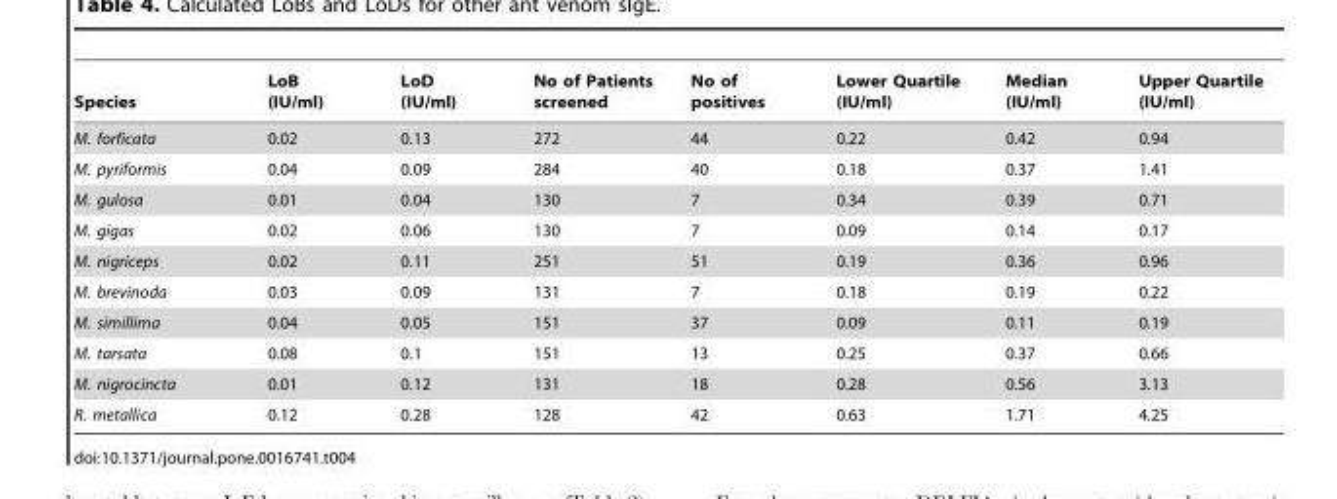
<table><thead><tr><td>Species</td><td>LoB (IU/ml)</td><td>LoD (IU/ml)</td><td>No of Patients screened</td><td>No of positives</td><td>Lower Quartile (IU/ml)</td><td>Median (IU/ml)</td><td>Upper Quartile (IU/ml)</td></tr></thead><tbody><tr><td>M. forficata</td><td>0.02</td><td>0.13</td><td>272</td><td>44</td><td>0.22</td><td>0.42</td><td>0.94</td></tr><tr><td>M. pyriformis</td><td>0.04</td><td>0.09</td><td>284</td><td>40</td><td>0.18</td><td>0.37</td><td>1.41</td></tr><tr><td>M. gulosa</td><td>0.01</td><td>0.04</td><td>130</td><td>7</td><td>0.34</td><td>0.39</td><td>0.71</td></tr><tr><td>M. gigas</td><td>0.02</td><td>0.06</td><td>130</td><td>7</td><td>0.09</td><td>0.14</td><td>0.17</td></tr><tr><td>M. nigriceps</td><td>0.02</td><td>0.11</td><td>251</td><td>51</td><td>0.19</td><td>0.36</td><td>0.96</td></tr><tr><td>M. brevinoda</td><td>0.03</td><td>0.09</td><td>131</td><td>7</td><td>0.18</td><td>0.19</td><td>0.22</td></tr><tr><td>M. simillima</td><td>0.04</td><td>0.05</td><td>151</td><td>37</td><td>0.09</td><td>0.11</td><td>0.19</td></tr><tr><td>M. tarsata</td><td>0.08</td><td>0.1</td><td>151</td><td>13</td><td>0.25</td><td>0.37</td><td>0.66</td></tr><tr><td>M. nigrocincta</td><td>0.01</td><td>0.12</td><td>131</td><td>18</td><td>0.28</td><td>0.56</td><td>3.13</td></tr><tr><td>R. metallica</td><td>0.12</td><td>0.28</td><td>128</td><td>42</td><td>0.63</td><td>1.71</td><td>4.25</td></tr></tbody></table>